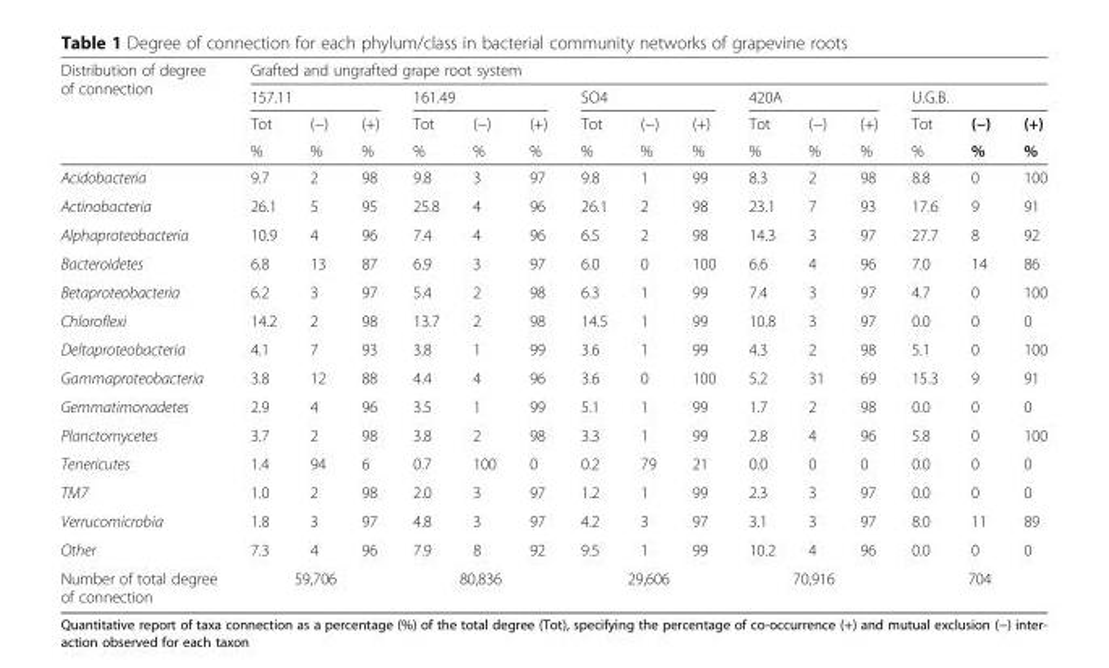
<table><thead><tr><td rowspan="4">Distribution of degree of connection</td><td colspan="15">Grafted and ungrafted grape root system</td></tr><tr><td colspan="3">157.11</td><td colspan="3">161.49</td><td colspan="3">SO4</td><td colspan="3">420A</td><td colspan="3">U.G.B.</td></tr><tr><td rowspan="2">Tot %</td><td rowspan="2">(−) %</td><td rowspan="2">(+) %</td><td rowspan="2">Tot %</td><td rowspan="2">(−) %</td><td rowspan="2">(+) %</td><td rowspan="2">Tot %</td><td rowspan="2">(−) %</td><td rowspan="2">(+) %</td><td rowspan="2">Tot %</td><td rowspan="2">(−) %</td><td rowspan="2">(+) %</td><td rowspan="2">Tot %</td><td rowspan="2">(−) %</td><td rowspan="2">(+) %</td></tr><tr></tr></thead><tbody><tr><td>Acidobacteria</td><td>9.7</td><td>2</td><td>98</td><td>9.8</td><td>3</td><td>97</td><td>9.8</td><td>1</td><td>99</td><td>8.3</td><td>2</td><td>98</td><td>8.8</td><td>0</td><td>100</td></tr><tr><td>Actinobacteria</td><td>26.1</td><td>5</td><td>95</td><td>25.8</td><td>4</td><td>96</td><td>26.1</td><td>2</td><td>98</td><td>23.1</td><td>7</td><td>93</td><td>17.6</td><td>9</td><td>91</td></tr><tr><td>Alphaproteobacteria</td><td>10.9</td><td>4</td><td>96</td><td>7.4</td><td>4</td><td>96</td><td>6.5</td><td>2</td><td>98</td><td>14.3</td><td>3</td><td>97</td><td>27.7</td><td>8</td><td>92</td></tr><tr><td>Bacteroidetes</td><td>6.8</td><td>13</td><td>87</td><td>6.9</td><td>3</td><td>97</td><td>6.0</td><td>0</td><td>100</td><td>6.6</td><td>4</td><td>96</td><td>7.0</td><td>14</td><td>86</td></tr><tr><td>Betaproteobacteria</td><td>6.2</td><td>3</td><td>97</td><td>5.4</td><td>2</td><td>98</td><td>6.3</td><td>1</td><td>99</td><td>7.4</td><td>3</td><td>97</td><td>4.7</td><td>0</td><td>100</td></tr><tr><td>Chloroflexi</td><td>14.2</td><td>2</td><td>98</td><td>13.7</td><td>2</td><td>98</td><td>14.5</td><td>1</td><td>99</td><td>10.8</td><td>3</td><td>97</td><td>0.0</td><td>0</td><td>0</td></tr><tr><td>Deltaproteobacteria</td><td>4.1</td><td>7</td><td>93</td><td>3.8</td><td>1</td><td>99</td><td>3.6</td><td>1</td><td>99</td><td>4.3</td><td>2</td><td>98</td><td>5.1</td><td>0</td><td>100</td></tr><tr><td>Gammaproteobacteria</td><td>3.8</td><td>12</td><td>88</td><td>4.4</td><td>4</td><td>96</td><td>3.6</td><td>0</td><td>100</td><td>5.2</td><td>31</td><td>69</td><td>15.3</td><td>9</td><td>91</td></tr><tr><td>Gemmatimonadetes</td><td>2.9</td><td>4</td><td>96</td><td>3.5</td><td>1</td><td>99</td><td>5.1</td><td>1</td><td>99</td><td>1.7</td><td>2</td><td>98</td><td>0.0</td><td>0</td><td>0</td></tr><tr><td>Planctomycetes</td><td>3.7</td><td>2</td><td>98</td><td>3.8</td><td>2</td><td>98</td><td>3.3</td><td>1</td><td>99</td><td>2.8</td><td>4</td><td>96</td><td>5.8</td><td>0</td><td>100</td></tr><tr><td>Tenericutes</td><td>1.4</td><td>94</td><td>6</td><td>0.7</td><td>100</td><td>0</td><td>0.2</td><td>79</td><td>21</td><td>0.0</td><td>0</td><td>0</td><td>0.0</td><td>0</td><td>0</td></tr><tr><td>TM7</td><td>1.0</td><td>2</td><td>98</td><td>2.0</td><td>3</td><td>97</td><td>1.2</td><td>1</td><td>99</td><td>2.3</td><td>3</td><td>97</td><td>0.0</td><td>0</td><td>0</td></tr><tr><td>Verrucomicrobia</td><td>1.8</td><td>3</td><td>97</td><td>4.8</td><td>3</td><td>97</td><td>4.2</td><td>3</td><td>97</td><td>3.1</td><td>3</td><td>97</td><td>8.0</td><td>11</td><td>89</td></tr><tr><td>Other</td><td>7.3</td><td>4</td><td>96</td><td>7.9</td><td>8</td><td>92</td><td>9.5</td><td>1</td><td>99</td><td>10.2</td><td>4</td><td>96</td><td>0.0</td><td>0</td><td>0</td></tr><tr><td>Number of total degree of connection</td><td colspan="3">59,706</td><td colspan="3">80,836</td><td colspan="3">29,606</td><td colspan="3">70,916</td><td colspan="3">704</td></tr></tbody></table>